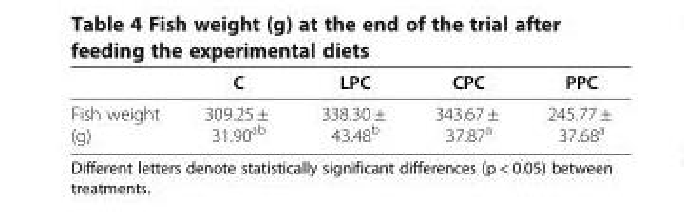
<table><thead><tr><td></td><td>C</td><td>LPC</td><td>CPC</td><td>PPC</td></tr></thead><tbody><tr><td>Fish weight (g)</td><td>309.25 ± 31.90<sup>ab</sup></td><td>338.30 ± 43.48<sup>b</sup></td><td>343.67 ± 37.87<sup>a</sup></td><td>245.77 ± 37.68<sup>a</sup></td></tr></tbody></table>